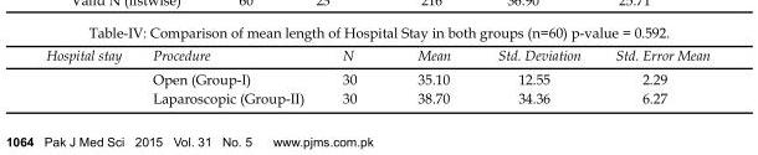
<table><thead><tr><td>Hospital stay</td><td>Procedure</td><td>N</td><td>Mean</td><td>Std. Deviation</td><td>Std. Error Mean</td></tr></thead><tbody><tr><td></td><td>Open (Group-I)</td><td>30</td><td>35.10</td><td>12.55</td><td>2.29</td></tr><tr><td></td><td>Laparoscopic (Group-II)</td><td>30</td><td>38.70</td><td>34.36</td><td>6.27</td></tr></tbody></table>